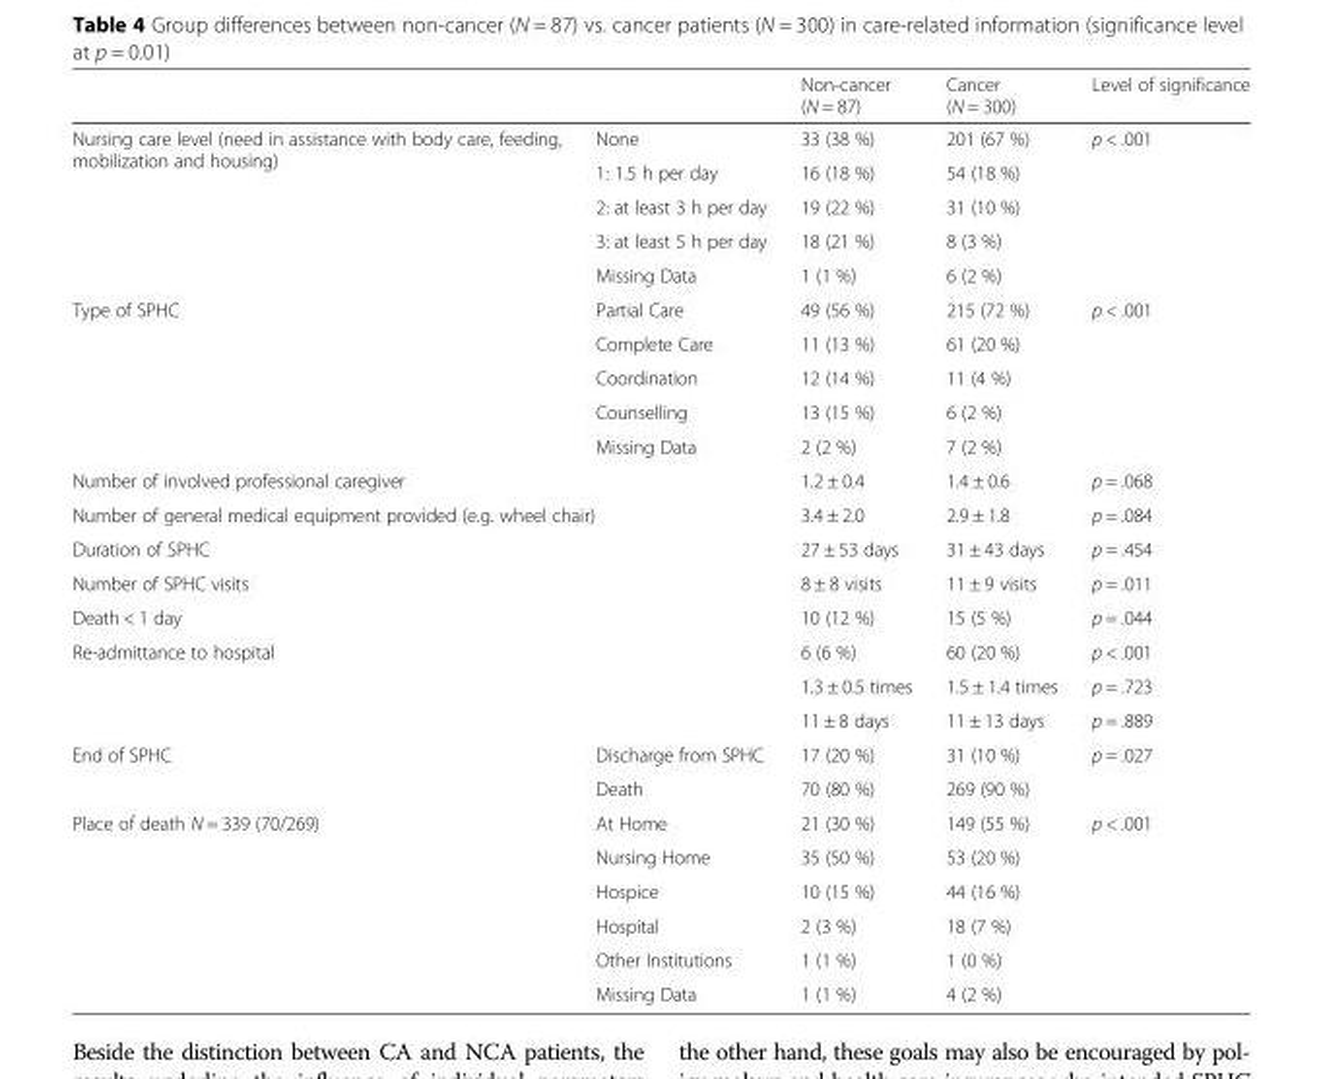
<table><thead><tr><td></td><td></td><td>Non-cancer (N = 87)</td><td>Cancer (N = 300)</td><td>Level of significance</td></tr></thead><tbody><tr><td rowspan="5">Nursing care level (need in assistance with body care, feeding, mobilization and housing)</td><td>None</td><td>33 (38 %)</td><td>201 (67 %)</td><td rowspan="5">p &lt; .001</td></tr><tr><td>1: 1.5 h per day</td><td>16 (18 %)</td><td>54 (18 %)</td></tr><tr><td>2: at least 3 h per day</td><td>19 (22 %)</td><td>31 (10 %)</td></tr><tr><td>3: at least 5 h per day</td><td>18 (21 %)</td><td>8 (3 %)</td></tr><tr><td>Missing Data</td><td>1 (1 %)</td><td>6 (2 %)</td></tr><tr><td rowspan="5">Type of SPHC</td><td>Partial Care</td><td>49 (56 %)</td><td>215 (72 %)</td><td rowspan="5">p &lt; .001</td></tr><tr><td>Complete Care</td><td>11 (13 %)</td><td>61 (20 %)</td></tr><tr><td>Coordination</td><td>12 (14 %)</td><td>11 (4 %)</td></tr><tr><td>Counselling</td><td>13 (15 %)</td><td>6 (2 %)</td></tr><tr><td>Missing Data</td><td>2 (2 %)</td><td>7 (2 %)</td></tr><tr><td colspan="2">Number of involved professional caregiver</td><td>1.2 ± 0.4</td><td>1.4 ± 0.6</td><td>p = .068</td></tr><tr><td colspan="2">Number of general medical equipment provided (e.g. wheel chair)</td><td>3.4 ± 2.0</td><td>2.9 ± 1.8</td><td>p = .084</td></tr><tr><td colspan="2">Duration of SPHC</td><td>27 ± 53 days</td><td>31 ± 43 days</td><td>p = .454</td></tr><tr><td colspan="2">Number of SPHC visits</td><td>8 ± 8 visits</td><td>11 ± 9 visits</td><td>p = .011</td></tr><tr><td colspan="2">Death &lt; 1 day</td><td>10 (12 %)</td><td>15 (5 %)</td><td>p = .044</td></tr><tr><td rowspan="3" colspan="2">Re-admittance to hospital</td><td>6 (6 %)</td><td>60 (20 %)</td><td>p &lt; .001</td></tr><tr><td>1.3 ± 0.5 times</td><td>1.5 ± 1.4 times</td><td>p = .723</td></tr><tr><td>11 ± 8 days</td><td>11 ± 13 days</td><td>p = .889</td></tr><tr><td rowspan="2">End of SPHC</td><td>Discharge from SPHC</td><td>17 (20 %)</td><td>31 (10 %)</td><td rowspan="2">p = .027</td></tr><tr><td>Death</td><td>70 (80 %)</td><td>269 (90 %)</td></tr><tr><td rowspan="6">Place of death N = 339 (70/269)</td><td>At Home</td><td>21 (30 %)</td><td>149 (55 %)</td><td rowspan="6">p &lt; .001</td></tr><tr><td>Nursing Home</td><td>35 (50 %)</td><td>53 (20 %)</td></tr><tr><td>Hospice</td><td>10 (15 %)</td><td>44 (16 %)</td></tr><tr><td>Hospital</td><td>2 (3 %)</td><td>18 (7 %)</td></tr><tr><td>Other Institutions</td><td>1 (1 %)</td><td>1 (0 %)</td></tr><tr><td>Missing Data</td><td>1 (1 %)</td><td>4 (2 %)</td></tr></tbody></table>